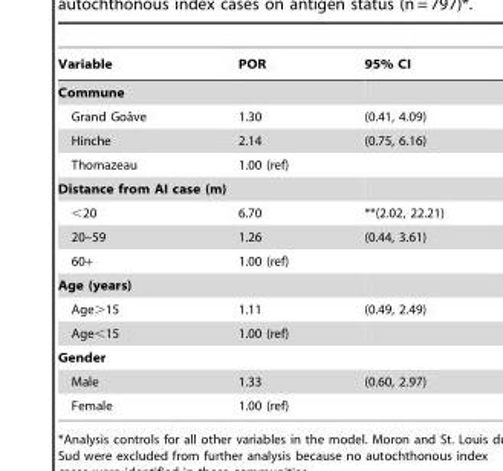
<table><thead><tr><td>Variable</td><td>POR</td><td>95% CI</td></tr></thead><tbody><tr><td colspan="3">Commune</td></tr><tr><td>Grand Goaˆve</td><td>1.30</td><td>(0.41, 4.09)</td></tr><tr><td>Hinche</td><td>2.14</td><td>(0.75, 6.16)</td></tr><tr><td>Thomazeau</td><td>1.00 (ref)</td><td></td></tr><tr><td colspan="3">Distance from AI case (m)</td></tr><tr><td>&lt;20</td><td>6.70</td><td>**(2.02, 22.21)</td></tr><tr><td>20–59</td><td>1.26</td><td>(0.44, 3.61)</td></tr><tr><td>60+</td><td>1.00 (ref)</td><td></td></tr><tr><td colspan="3">Age (years)</td></tr><tr><td>Age&gt;15</td><td>1.11</td><td>(0.49, 2.49)</td></tr><tr><td>Age&lt;15</td><td>1.00 (ref)</td><td></td></tr><tr><td colspan="3">Gender</td></tr><tr><td>Male</td><td>1.33</td><td>(0.60, 2.97)</td></tr><tr><td>Female</td><td>1.00 (ref)</td><td></td></tr></tbody></table>